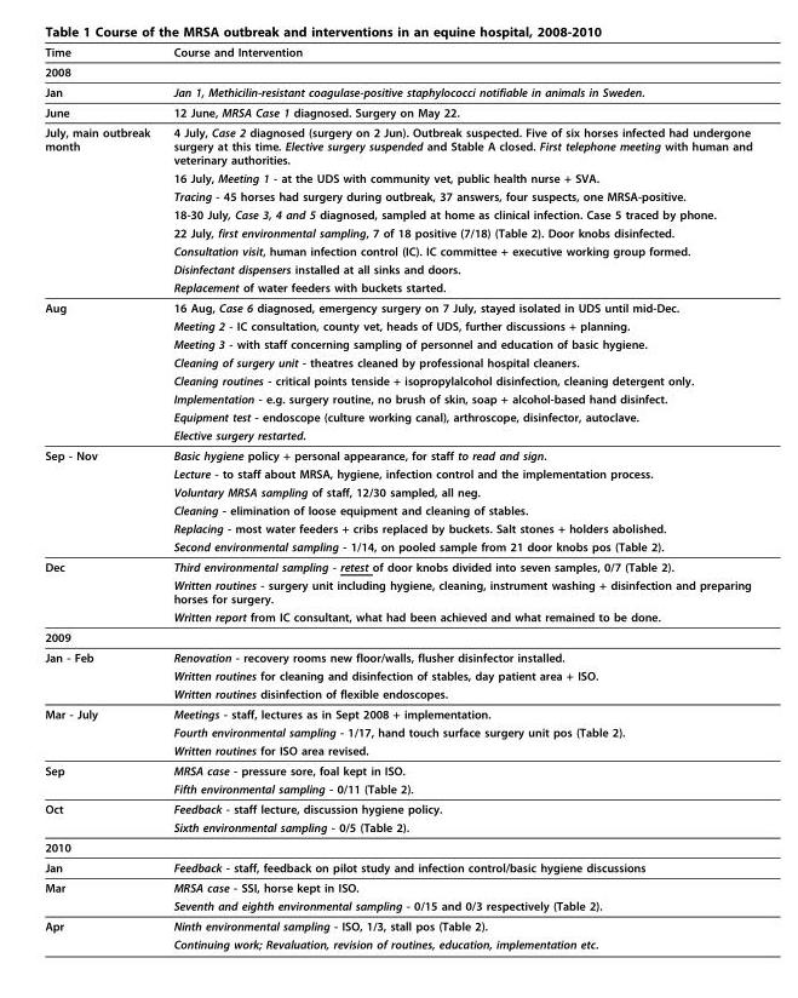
<table><thead><tr><td>Time</td><td>Course and Intervention</td></tr></thead><tbody><tr><td colspan="2">2008</td></tr><tr><td>Jan</td><td>Jan 1, Methicilin-resistant coagulase-positive staphylococci notifiable in animals in Sweden.</td></tr><tr><td>June</td><td>12 June, MRSA Case 1 diagnosed. Surgery on May 22.</td></tr><tr><td rowspan="8">July, main outbreak month</td><td>4 July, Case 2 diagnosed (surgery on 2 Jun). Outbreak suspected. Five of six horses infected had undergone surgery at this time. Elective surgery suspended and Stable A closed. First telephone meeting with human and veterinary authorities.</td></tr><tr><td>16 July, Meeting 1 - at the UDS with community vet, public health nurse + SVA.</td></tr><tr><td>Tracing - 45 horses had surgery during outbreak, 37 answers, four suspects, one MRSA-positive.</td></tr><tr><td>18-30 July, Case 3, 4 and 5 diagnosed, sampled at home as clinical infection. Case 5 traced by phone.</td></tr><tr><td>22 July, first environmental sampling, 7 of 18 positive (7/18) (Table 2). Door knobs disinfected.</td></tr><tr><td>Consultation visit, human infection control (IC). IC committee + executive working group formed.</td></tr><tr><td>Disinfectant dispensers installed at all sinks and doors.</td></tr><tr><td>Replacement of water feeders with buckets started.</td></tr><tr><td rowspan="8">Aug</td><td>16 Aug, Case 6 diagnosed, emergency surgery on 7 July, stayed isolated in UDS until mid-Dec.</td></tr><tr><td>Meeting 2 - IC consultation, county vet, heads of UDS, further discussions + planning.</td></tr><tr><td>Meeting 3 - with staff concerning sampling of personnel and education of basic hygiene.</td></tr><tr><td>Cleaning of surgery unit - theatres cleaned by professional hospital cleaners.</td></tr><tr><td>Cleaning routines - critical points tenside + isopropylalcohol disinfection, cleaning detergent only.</td></tr><tr><td>Implementation - e.g. surgery routine, no brush of skin, soap + alcohol-based hand disinfect.</td></tr><tr><td>Equipment test - endoscope (culture working canal), arthroscope, disinfector, autoclave.</td></tr><tr><td>Elective surgery restarted.</td></tr><tr><td rowspan="6">Sep - Nov</td><td>Basic hygiene policy + personal appearance, for staff to read and sign.</td></tr><tr><td>Lecture - to staff about MRSA, hygiene, infection control and the implementation process.</td></tr><tr><td>Voluntary MRSA sampling of staff, 12/30 sampled, all neg.</td></tr><tr><td>Cleaning - elimination of loose equipment and cleaning of stables.</td></tr><tr><td>Replacing - most water feeders + cribs replaced by buckets. Salt stones + holders abolished.</td></tr><tr><td>Second environmental sampling - 1/14, on pooled sample from 21 door knobs pos (Table 2).</td></tr><tr><td rowspan="3">Dec</td><td>Third environmental sampling - retest of door knobs divided into seven samples, 0/7 (Table 2).</td></tr><tr><td>Written routines - surgery unit including hygiene, cleaning, instrument washing + disinfection and preparing horses for surgery.</td></tr><tr><td>Written report from IC consultant, what had been achieved and what remained to be done.</td></tr><tr><td colspan="2">2009</td></tr><tr><td rowspan="3">Jan - Feb</td><td>Renovation - recovery rooms new floor/walls, flusher disinfector installed.</td></tr><tr><td>Written routines for cleaning and disinfection of stables, day patient area + ISO.</td></tr><tr><td>Written routines disinfection of flexible endoscopes.</td></tr><tr><td rowspan="3">Mar - July</td><td>Meetings - staff, lectures as in Sept 2008 + implementation.</td></tr><tr><td>Fourth environmental sampling - 1/17, hand touch surface surgery unit pos (Table 2).</td></tr><tr><td>Written routines for ISO area revised.</td></tr><tr><td rowspan="2">Sep</td><td>MRSA case - pressure sore, foal kept in ISO.</td></tr><tr><td>Fifth environmental sampling - 0/11 (Table 2).</td></tr><tr><td rowspan="2">Oct</td><td>Feedback - staff lecture, discussion hygiene policy.</td></tr><tr><td>Sixth environmental sampling - 0/5 (Table 2).</td></tr><tr><td colspan="2">2010</td></tr><tr><td>Jan</td><td>Feedback - staff, feedback on pilot study and infection control/basic hygiene discussions</td></tr><tr><td rowspan="2">Mar</td><td>MRSA case - SSI, horse kept in ISO.</td></tr><tr><td>Seventh and eighth environmental sampling - 0/15 and 0/3 respectively (Table 2).</td></tr><tr><td rowspan="2">Apr</td><td>Ninth environmental sampling - ISO, 1/3, stall pos (Table 2).</td></tr><tr><td>Continuing work; Revaluation, revision of routines, education, implementation etc.</td></tr></tbody></table>